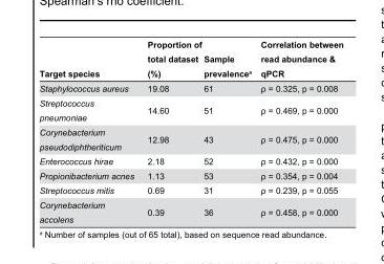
<table><thead><tr><td>Target species</td><td>Proportion of total dataset (%)</td><td>Sample prevalence<sup>a</sup></td><td>Correlation between read abundance &amp; qPCR</td></tr></thead><tbody><tr><td>Staphylococcus aureus</td><td>19.08</td><td>61</td><td>ρ = 0.325, p = 0.008</td></tr><tr><td>Streptococcus pneumoniae</td><td>14.60</td><td>51</td><td>ρ = 0.469, p = 0.000</td></tr><tr><td>Corynebacterium pseudodiphtheriticum</td><td>12.98</td><td>43</td><td>ρ = 0.475, p = 0.000</td></tr><tr><td>Enterococcus hirae</td><td>2.18</td><td>52</td><td>ρ = 0.432, p = 0.000</td></tr><tr><td>Propionibacterium acnes</td><td>1.13</td><td>53</td><td>ρ = 0.354, p = 0.004</td></tr><tr><td>Streptococcus mitis</td><td>0.69</td><td>31</td><td>ρ = 0.239, p = 0.055</td></tr><tr><td>Corynebacterium accolens</td><td>0.39</td><td>36</td><td>ρ = 0.458, p = 0.000</td></tr></tbody></table>